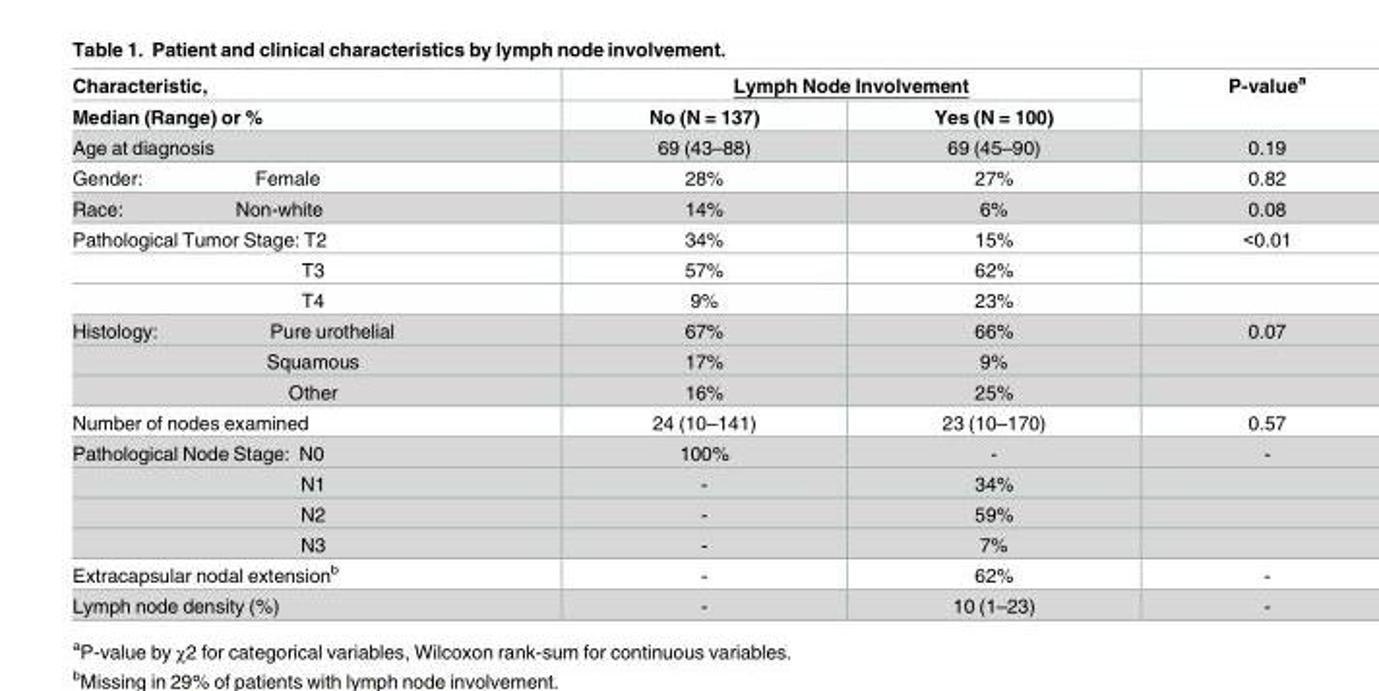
<table><thead><tr><td rowspan="2">Characteristic, Median (Range) or %</td><td colspan="2">Lymph Node Involvement</td><td rowspan="2">P-value<sup>a</sup></td></tr><tr><td>No (N = 137)</td><td>Yes (N = 100)</td></tr></thead><tbody><tr><td>Age at diagnosis</td><td>69 (43–88)</td><td>69 (45–90)</td><td>0.19</td></tr><tr><td>Gender: Female</td><td>28%</td><td>27%</td><td>0.82</td></tr><tr><td>Race: Non-white</td><td>14%</td><td>6%</td><td>0.08</td></tr><tr><td>Pathological Tumor Stage: T2</td><td>34%</td><td>15%</td><td>&lt;0.01</td></tr><tr><td>T3</td><td>57%</td><td>62%</td><td></td></tr><tr><td>T4</td><td>9%</td><td>23%</td><td></td></tr><tr><td>Histology: Pure urothelial</td><td>67%</td><td>66%</td><td>0.07</td></tr><tr><td>Squamous</td><td>17%</td><td>9%</td><td></td></tr><tr><td>Other</td><td>16%</td><td>25%</td><td></td></tr><tr><td>Number of nodes examined</td><td>24 (10–141)</td><td>23 (10–170)</td><td>0.57</td></tr><tr><td>Pathological Node Stage: N0</td><td>100%</td><td>-</td><td>-</td></tr><tr><td>N1</td><td>-</td><td>34%</td><td></td></tr><tr><td>N2</td><td>-</td><td>59%</td><td></td></tr><tr><td>N3</td><td>-</td><td>7%</td><td></td></tr><tr><td>Extracapsular nodal extension<sup>b</sup></td><td>-</td><td>62%</td><td>-</td></tr><tr><td>Lymph node density (%)</td><td>-</td><td>10 (1–23)</td><td>-</td></tr></tbody></table>